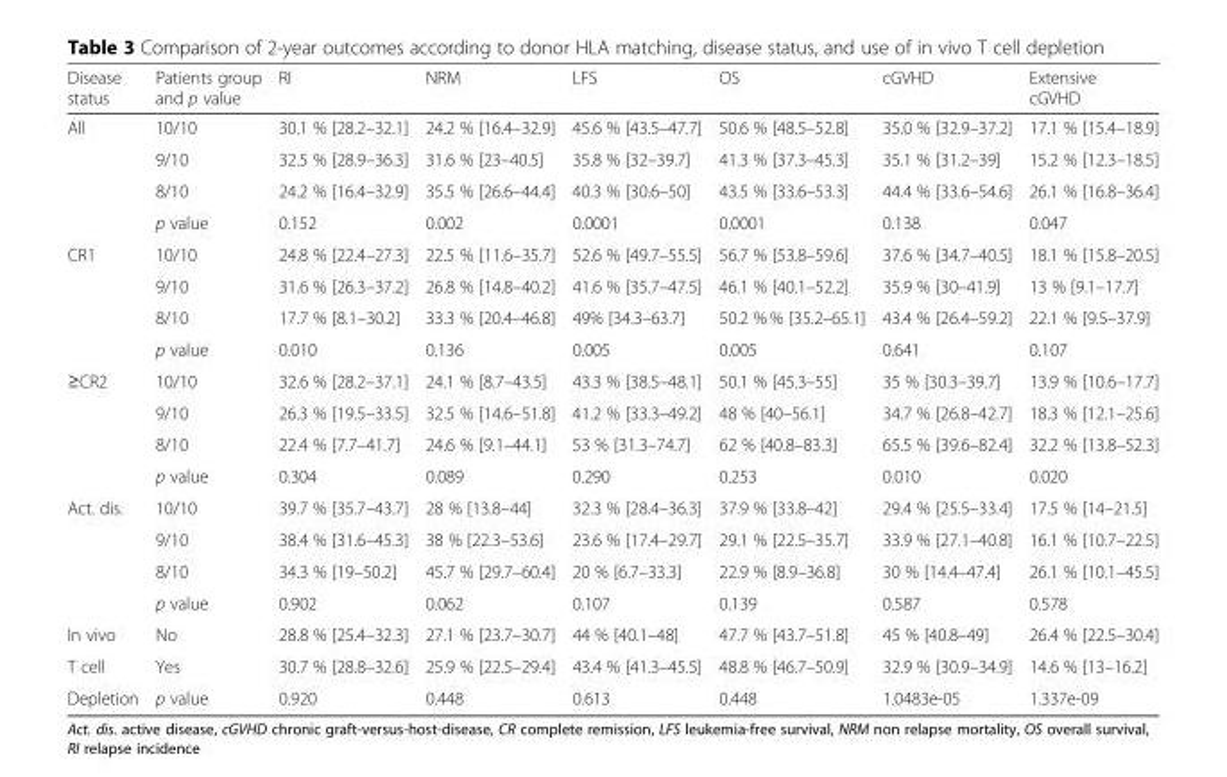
<table><thead><tr><td>Disease status</td><td>Patients group and p value</td><td>RI</td><td>NRM</td><td>LFS</td><td>OS</td><td>cGVHD</td><td>Extensive cGVHD</td></tr></thead><tbody><tr><td rowspan="4">All</td><td>10/10</td><td>30.1 % [28.2–32.1]</td><td>24.2 % [16.4–32.9]</td><td>45.6 % [43.5–47.7]</td><td>50.6 % [48.5–52.8]</td><td>35.0 % [32.9–37.2]</td><td>17.1 % [15.4–18.9]</td></tr><tr><td>9/10</td><td>32.5 % [28.9–36.3]</td><td>31.6 % [23–40.5]</td><td>35.8 % [32–39.7]</td><td>41.3 % [37.3–45.3]</td><td>35.1 % [31.2–39]</td><td>15.2 % [12.3–18.5]</td></tr><tr><td>8/10</td><td>24.2 % [16.4–32.9]</td><td>35.5 % [26.6–44.4]</td><td>40.3 % [30.6–50]</td><td>43.5 % [33.6–53.3]</td><td>44.4 % [33.6–54.6]</td><td>26.1 % [16.8–36.4]</td></tr><tr><td>p value</td><td>0.152</td><td>0.002</td><td>0.0001</td><td>0.0001</td><td>0.138</td><td>0.047</td></tr><tr><td rowspan="4">CR1</td><td>10/10</td><td>24.8 % [22.4–27.3]</td><td>22.5 % [11.6–35.7]</td><td>52.6 % [49.7–55.5]</td><td>56.7 % [53.8–59.6]</td><td>37.6 % [34.7–40.5]</td><td>18.1 % [15.8–20.5]</td></tr><tr><td>9/10</td><td>31.6 % [26.3–37.2]</td><td>26.8 % [14.8–40.2]</td><td>41.6 % [35.7–47.5]</td><td>46.1 % [40.1–52.2]</td><td>35.9 % [30–41.9]</td><td>13 % [9.1–17.7]</td></tr><tr><td>8/10</td><td>17.7 % [8.1–30.2]</td><td>33.3 % [20.4–46.8]</td><td>49% [34.3–63.7]</td><td>50.2 % % [35.2–65.1]</td><td>43.4 % [26.4–59.2]</td><td>22.1 % [9.5–37.9]</td></tr><tr><td>p value</td><td>0.010</td><td>0.136</td><td>0.005</td><td>0.005</td><td>0.641</td><td>0.107</td></tr><tr><td rowspan="4">≥CR2</td><td>10/10</td><td>32.6 % [28.2–37.1]</td><td>24.1 % [8.7–43.5]</td><td>43.3 % [38.5–48.1]</td><td>50.1 % [45.3–55]</td><td>35 % [30.3–39.7]</td><td>13.9 % [10.6–17.7]</td></tr><tr><td>9/10</td><td>26.3 % [19.5–33.5]</td><td>32.5 % [14.6–51.8]</td><td>41.2 % [33.3–49.2]</td><td>48 % [40–56.1]</td><td>34.7 % [26.8–42.7]</td><td>18.3 % [12.1–25.6]</td></tr><tr><td>8/10</td><td>22.4 % [7.7–41.7]</td><td>24.6 % [9.1–44.1]</td><td>53 % [31.3–74.7]</td><td>62 % [40.8–83.3]</td><td>65.5 % [39.6–82.4]</td><td>32.2 % [13.8–52.3]</td></tr><tr><td>p value</td><td>0.304</td><td>0.089</td><td>0.290</td><td>0.253</td><td>0.010</td><td>0.020</td></tr><tr><td rowspan="4">Act. dis.</td><td>10/10</td><td>39.7 % [35.7–43.7]</td><td>28 % [13.8–44]</td><td>32.3 % [28.4–36.3]</td><td>37.9 % [33.8–42]</td><td>29.4 % [25.5–33.4]</td><td>17.5 % [14–21.5]</td></tr><tr><td>9/10</td><td>38.4 % [31.6–45.3]</td><td>38 % [22.3–53.6]</td><td>23.6 % [17.4–29.7]</td><td>29.1 % [22.5–35.7]</td><td>33.9 % [27.1–40.8]</td><td>16.1 % [10.7–22.5]</td></tr><tr><td>8/10</td><td>34.3 % [19–50.2]</td><td>45.7 % [29.7–60.4]</td><td>20 % [6.7–33.3]</td><td>22.9 % [8.9–36.8]</td><td>30 % [14.4–47.4]</td><td>26.1 % [10.1–45.5]</td></tr><tr><td>p value</td><td>0.902</td><td>0.062</td><td>0.107</td><td>0.139</td><td>0.587</td><td>0.578</td></tr><tr><td>In vivo</td><td>No</td><td>28.8 % [25.4–32.3]</td><td>27.1 % [23.7–30.7]</td><td>44 % [40.1–48]</td><td>47.7 % [43.7–51.8]</td><td>45 % [40.8–49]</td><td>26.4 % [22.5–30.4]</td></tr><tr><td>T cell</td><td>Yes</td><td>30.7 % [28.8–32.6]</td><td>25.9 % [22.5–29.4]</td><td>43.4 % [41.3–45.5]</td><td>48.8 % [46.7–50.9]</td><td>32.9 % [30.9–34.9]</td><td>14.6 % [13–16.2]</td></tr><tr><td>Depletion</td><td>p value</td><td>0.920</td><td>0.448</td><td>0.613</td><td>0.448</td><td>1.0483e-05</td><td>1.337e-09</td></tr></tbody></table>